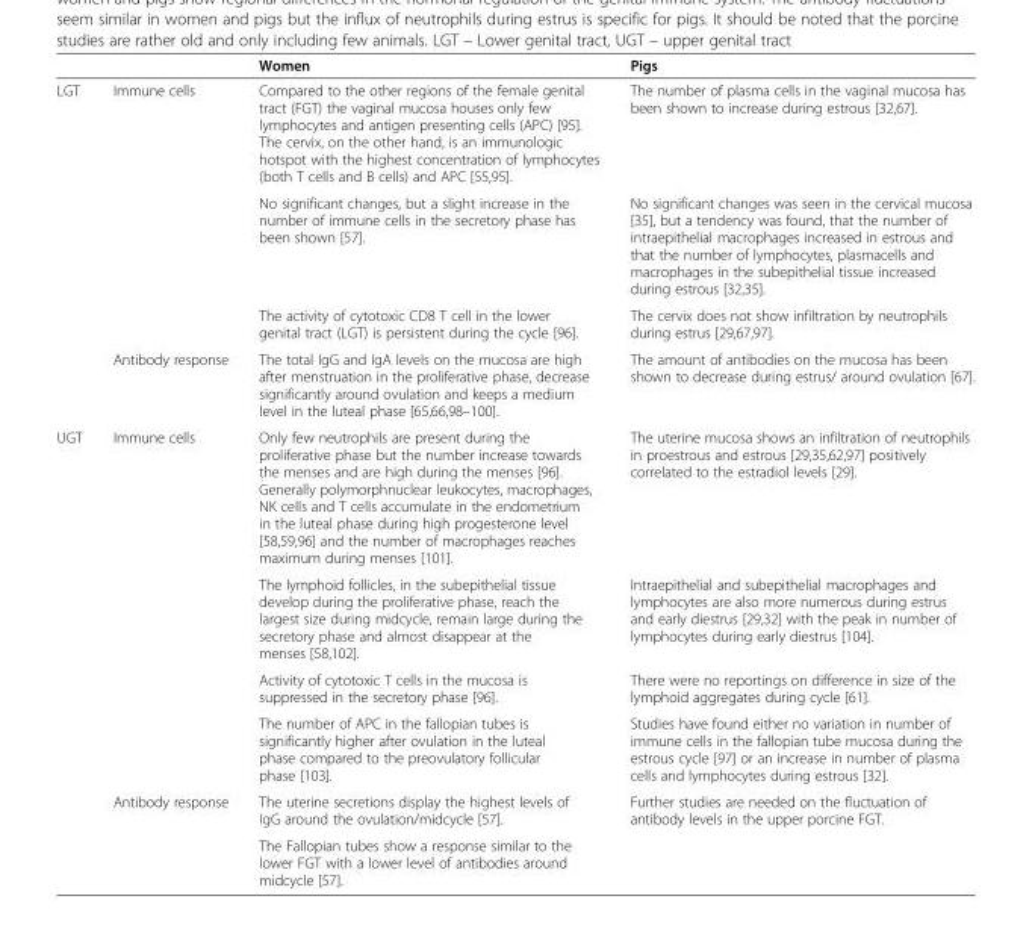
<table><thead><tr><td></td><td></td><td>Women</td><td>Pigs</td></tr></thead><tbody><tr><td rowspan="4">LGT</td><td rowspan="3">Immune cells</td><td>Compared to the other regions of the female genital tract (FGT) the vaginal mucosa houses only few lymphocytes and antigen presenting cells (APC) [95]. The cervix, on the other hand, is an immunologic hotspot with the highest concentration of lymphocytes (both T cells and B cells) and APC [55,95].</td><td>The number of plasma cells in the vaginal mucosa has been shown to increase during estrous [32,67].</td></tr><tr><td>No significant changes, but a slight increase in the number of immune cells in the secretory phase has been shown [57].</td><td>No significant changes was seen in the cervical mucosa [35], but a tendency was found, that the number of intraepithelial macrophages increased in estrous and that the number of lymphocytes, plasmacells and macrophages in the subepithelial tissue increased during estrous [32,35].</td></tr><tr><td>The activity of cytotoxic CD8 T cell in the lower genital tract (LGT) is persistent during the cycle [96].</td><td>The cervix does not show infiltration by neutrophils during estrus [29,67,97].</td></tr><tr><td>Antibody response</td><td>The total IgG and IgA levels on the mucosa are high after menstruation in the proliferative phase, decrease significantly around ovulation and keeps a medium level in the luteal phase [65,66,98–100].</td><td>The amount of antibodies on the mucosa has been shown to decrease during estrus/ around ovulation [67].</td></tr><tr><td rowspan="6">UGT</td><td rowspan="4">Immune cells</td><td>Only few neutrophils are present during the proliferative phase but the number increase towards the menses and are high during the menses [96]. Generally polymorphnuclear leukocytes, macrophages, NK cells and T cells accumulate in the endometrium in the luteal phase during high progesterone level [58,59,96] and the number of macrophages reaches maximum during menses [101].</td><td>The uterine mucosa shows an infiltration of neutrophils in proestrous and estrous [29,35,62,97] positively correlated to the estradiol levels [29].</td></tr><tr><td>The lymphoid follicles, in the subepithelial tissue develop during the proliferative phase, reach the largest size during midcycle, remain large during the secretory phase and almost disappear at the menses [58,102].</td><td>Intraepithelial and subepithelial macrophages and lymphocytes are also more numerous during estrus and early diestrus [29,32] with the peak in number of lymphocytes during early diestrus [104].</td></tr><tr><td>Activity of cytotoxic T cells in the mucosa is suppressed in the secretory phase [96].</td><td>There were no reportings on difference in size of the lymphoid aggregates during cycle [61].</td></tr><tr><td>The number of APC in the fallopian tubes is significantly higher after ovulation in the luteal phase compared to the preovulatory follicular phase [103].</td><td>Studies have found either no variation in number of immune cells in the fallopian tube mucosa during the estrous cycle [97] or an increase in number of plasma cells and lymphocytes during estrous [32].</td></tr><tr><td rowspan="2">Antibody response</td><td>The uterine secretions display the highest levels of IgG around the ovulation/midcycle [57].</td><td rowspan="2">Further studies are needed on the fluctuation of antibody levels in the upper porcine FGT.</td></tr><tr><td>The Fallopian tubes show a response similar to the lower FGT with a lower level of antibodies around midcycle [57].</td></tr></tbody></table>